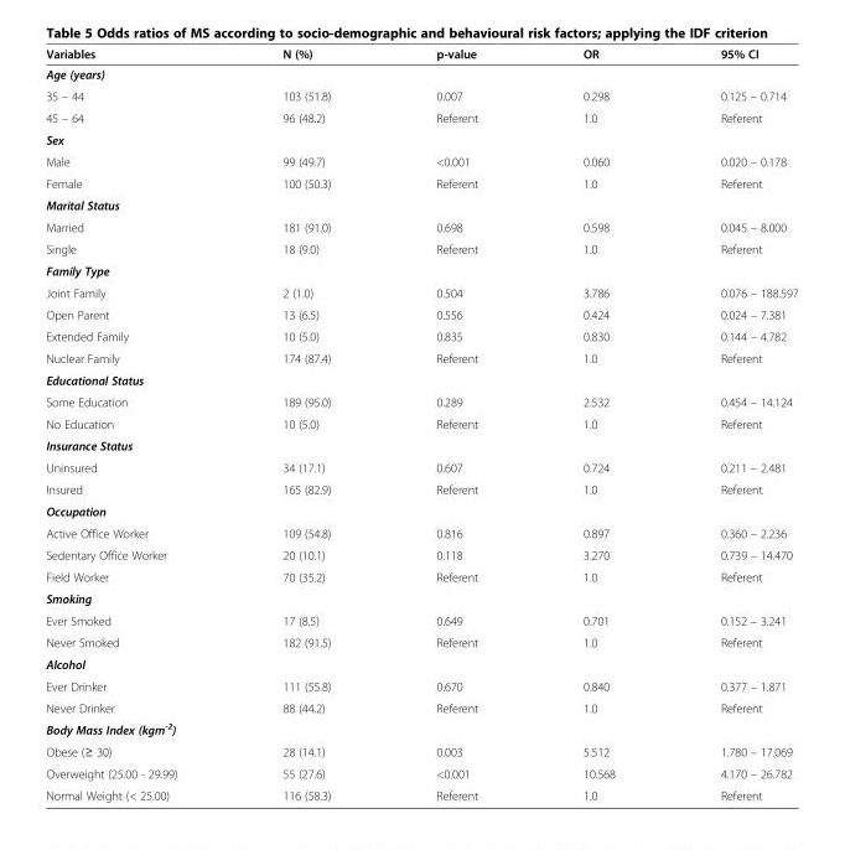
<table><thead><tr><td>Variables</td><td>N (%)</td><td>p-value</td><td>OR</td><td>95% CI</td></tr></thead><tbody><tr><td colspan="5">Age (years)</td></tr><tr><td>35 – 44</td><td>103 (51.8)</td><td>0.007</td><td>0.298</td><td>0.125 – 0.714</td></tr><tr><td>45 – 64</td><td>96 (48.2)</td><td>Referent</td><td>1.0</td><td>Referent</td></tr><tr><td colspan="5">Sex</td></tr><tr><td>Male</td><td>99 (49.7)</td><td>&lt;0.001</td><td>0.060</td><td>0.020 – 0.178</td></tr><tr><td>Female</td><td>100 (50.3)</td><td>Referent</td><td>1.0</td><td>Referent</td></tr><tr><td colspan="5">Marital Status</td></tr><tr><td>Married</td><td>181 (91.0)</td><td>0.698</td><td>0.598</td><td>0.045 – 8.000</td></tr><tr><td>Single</td><td>18 (9.0)</td><td>Referent</td><td>1.0</td><td>Referent</td></tr><tr><td colspan="5">Family Type</td></tr><tr><td>Joint Family</td><td>2 (1.0)</td><td>0.504</td><td>3.786</td><td>0.076 – 188.597</td></tr><tr><td>Open Parent</td><td>13 (6.5)</td><td>0.556</td><td>0.424</td><td>0.024 – 7.381</td></tr><tr><td>Extended Family</td><td>10 (5.0)</td><td>0.835</td><td>0.830</td><td>0.144 – 4.782</td></tr><tr><td>Nuclear Family</td><td>174 (87.4)</td><td>Referent</td><td>1.0</td><td>Referent</td></tr><tr><td colspan="5">Educational Status</td></tr><tr><td>Some Education</td><td>189 (95.0)</td><td>0.289</td><td>2.532</td><td>0.454 – 14.124</td></tr><tr><td>No Education</td><td>10 (5.0)</td><td>Referent</td><td>1.0</td><td>Referent</td></tr><tr><td colspan="5">Insurance Status</td></tr><tr><td>Uninsured</td><td>34 (17.1)</td><td>0.607</td><td>0.724</td><td>0.211 – 2.481</td></tr><tr><td>Insured</td><td>165 (82.9)</td><td>Referent</td><td>1.0</td><td>Referent</td></tr><tr><td colspan="5">Occupation</td></tr><tr><td>Active Office Worker</td><td>109 (54.8)</td><td>0.816</td><td>0.897</td><td>0.360 – 2.236</td></tr><tr><td>Sedentary Office Worker</td><td>20 (10.1)</td><td>0.118</td><td>3.270</td><td>0.739 – 14.470</td></tr><tr><td>Field Worker</td><td>70 (35.2)</td><td>Referent</td><td>1.0</td><td>Referent</td></tr><tr><td colspan="5">Smoking</td></tr><tr><td>Ever Smoked</td><td>17 (8.5)</td><td>0.649</td><td>0.701</td><td>0.152 – 3.241</td></tr><tr><td>Never Smoked</td><td>182 (91.5)</td><td>Referent</td><td>1.0</td><td>Referent</td></tr><tr><td colspan="5">Alcohol</td></tr><tr><td>Ever Drinker</td><td>111 (55.8)</td><td>0.670</td><td>0.840</td><td>0.377 – 1.871</td></tr><tr><td>Never Drinker</td><td>88 (44.2)</td><td>Referent</td><td>1.0</td><td>Referent</td></tr><tr><td colspan="5">Body Mass Index (kgm<sup>-2</sup>)</td></tr><tr><td>Obese (≥ 30)</td><td>28 (14.1)</td><td>0.003</td><td>5.512</td><td>1.780 – 17.069</td></tr><tr><td>Overweight (25.00 - 29.99)</td><td>55 (27.6)</td><td>&lt;0.001</td><td>10.568</td><td>4.170 – 26.782</td></tr><tr><td>Normal Weight (&lt; 25.00)</td><td>116 (58.3)</td><td>Referent</td><td>1.0</td><td>Referent</td></tr></tbody></table>